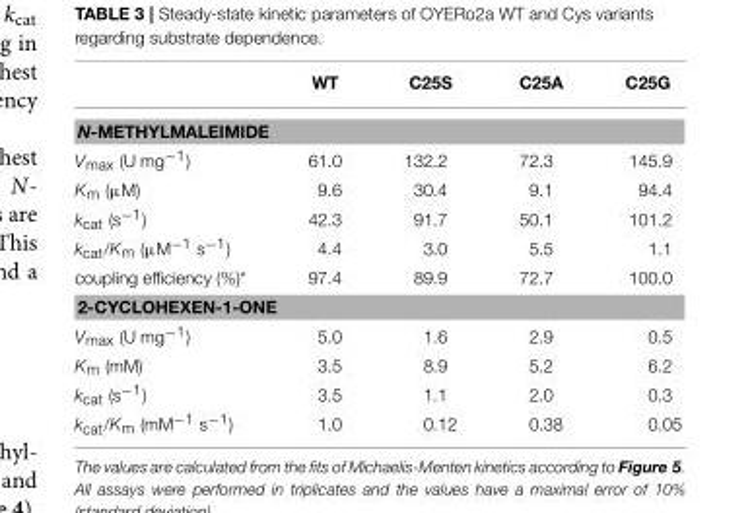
<table><thead><tr><td></td><td>WT</td><td>C25S</td><td>C25A</td><td>C25G</td></tr></thead><tbody><tr><td colspan="5">N-METHYLMALEIMIDE</td></tr><tr><td>V<sub>max</sub> (U mg<sup>−1</sup>)</td><td>61.0</td><td>132.2</td><td>72.3</td><td>145.9</td></tr><tr><td>K<sub>m</sub> (µM)</td><td>9.6</td><td>30.4</td><td>9.1</td><td>94.4</td></tr><tr><td>k<sub>cat</sub> (s<sup>−1</sup>)</td><td>42.3</td><td>91.7</td><td>50.1</td><td>101.2</td></tr><tr><td>k<sub>cat</sub>/K<sub>m</sub> (µM<sup>−1</sup> s<sup>−1</sup>)</td><td>4.4</td><td>3.0</td><td>5.5</td><td>1.1</td></tr><tr><td>coupling efficiency (%)*</td><td>97.4</td><td>89.9</td><td>72.7</td><td>100.0</td></tr><tr><td colspan="5">2-CYCLOHEXEN-1-ONE</td></tr><tr><td>V<sub>max</sub> (U mg<sup>−1</sup>)</td><td>5.0</td><td>1.6</td><td>2.9</td><td>0.5</td></tr><tr><td>K<sub>m</sub> (mM)</td><td>3.5</td><td>8.9</td><td>5.2</td><td>6.2</td></tr><tr><td>k<sub>cat</sub> (s<sup>−1</sup>)</td><td>3.5</td><td>1.1</td><td>2.0</td><td>0.3</td></tr><tr><td>k<sub>cat</sub>/K<sub>m</sub> (mM<sup>−1</sup> s<sup>−1</sup>)</td><td>1.0</td><td>0.12</td><td>0.38</td><td>0.05</td></tr></tbody></table>